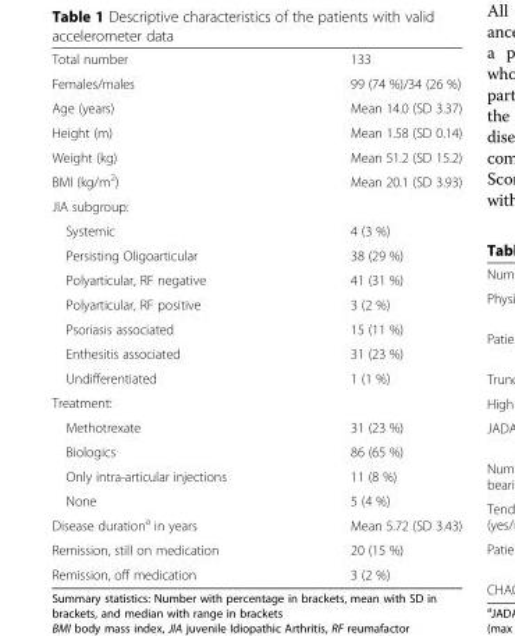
<table><tbody><tr><td>Total number</td><td>133</td></tr><tr><td>Females/males</td><td>99 (74 %)/34 (26 %)</td></tr><tr><td>Age (years)</td><td>Mean 14.0 (SD 3.37)</td></tr><tr><td>Height (m)</td><td>Mean 1.58 (SD 0.14)</td></tr><tr><td>Weight (kg)</td><td>Mean 51.2 (SD 15.2)</td></tr><tr><td>BMI (kg/m<sup>2</sup>)</td><td>Mean 20.1 (SD 3.93)</td></tr><tr><td colspan="2">JIA subgroup:</td></tr><tr><td>Systemic</td><td>4 (3 %)</td></tr><tr><td>Persisting Oligoarticular</td><td>38 (29 %)</td></tr><tr><td>Polyarticular, RF negative</td><td>41 (31 %)</td></tr><tr><td>Polyarticular, RF positive</td><td>3 (2 %)</td></tr><tr><td>Psoriasis associated</td><td>15 (11 %)</td></tr><tr><td>Enthesitis associated</td><td>31 (23 %)</td></tr><tr><td>Undifferentiated</td><td>1 (1 %)</td></tr><tr><td colspan="2">Treatment:</td></tr><tr><td>Methotrexate</td><td>31 (23 %)</td></tr><tr><td>Biologics</td><td>86 (65 %)</td></tr><tr><td>Only intra-articular injections</td><td>11 (8 %)</td></tr><tr><td>None</td><td>5 (4 %)</td></tr><tr><td>Disease duration<sup>a</sup> in years</td><td>Mean 5.72 (SD 3.43)</td></tr><tr><td>Remission, still on medication</td><td>20 (15 %)</td></tr><tr><td>Remission, off medication</td><td>3 (2 %)</td></tr></tbody></table>